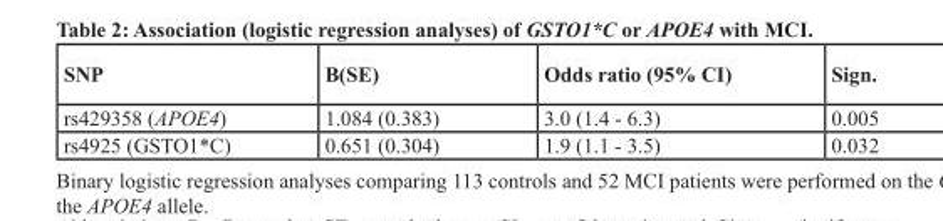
<table><thead><tr><td>snP</td><td>b(se)</td><td>Odds ratio (95% CI)</td><td>Sign.</td></tr></thead><tbody><tr><td>rs429358 (APOE4)</td><td>1.084 (0.383)</td><td>3.0 (1.4 - 6.3)</td><td>0.005</td></tr><tr><td>rs4925 (GSTO1*C)</td><td>0.651 (0.304)</td><td>1.9 (1.1 - 3.5)</td><td>0.032</td></tr></tbody></table>